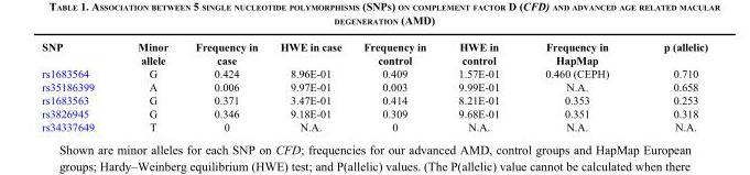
<table><thead><tr><td>SNP</td><td>Minor allele</td><td>Frequency in case</td><td>HWE in case</td><td>Frequency in control</td><td>HWE in control</td><td>Frequency in HapMap</td><td>p (allelic)</td></tr></thead><tbody><tr><td>rs1683564</td><td>G</td><td>0.424</td><td>8.96E-01</td><td>0.409</td><td>1.57E-01</td><td>0.460 (CEPH)</td><td>0.710</td></tr><tr><td>rs35186399</td><td>A</td><td>0.006</td><td>9.97E-01</td><td>0.003</td><td>9.99E-01</td><td>N.A.</td><td>0.658</td></tr><tr><td>rs1683563</td><td>G</td><td>0.371</td><td>3.47E-01</td><td>0.414</td><td>8.21E-01</td><td>0.353</td><td>0.253</td></tr><tr><td>rs3826945</td><td>G</td><td>0.346</td><td>9.18E-01</td><td>0.309</td><td>9.68E-01</td><td>0.351</td><td>0.318</td></tr><tr><td>rs34337649</td><td>T</td><td>0</td><td>N.A.</td><td>0</td><td>N.A.</td><td>N.A.</td><td>N.A.</td></tr></tbody></table>